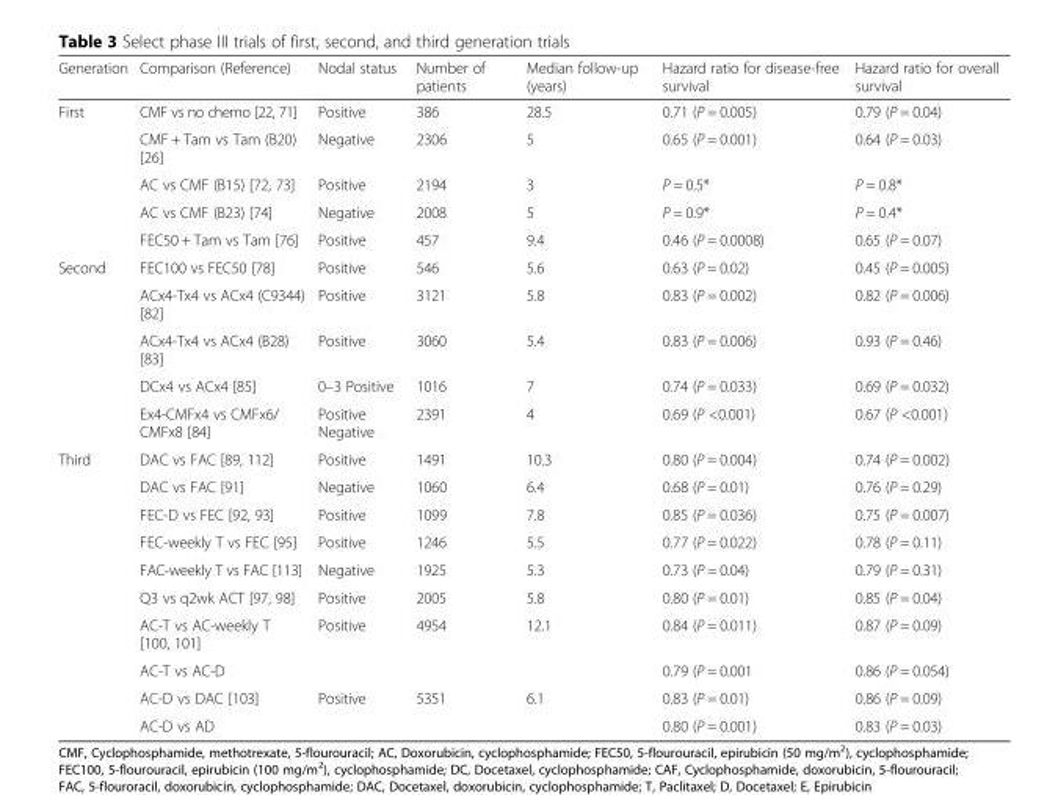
<table><thead><tr><td>Generation</td><td>Comparison (Reference)</td><td>Nodal status</td><td>Number of patients</td><td>Median follow-up (years)</td><td>Hazard ratio for disease-free survival</td><td>Hazard ratio for overall survival</td></tr></thead><tbody><tr><td rowspan="5">First</td><td>CMF vs no chemo [22, 71]</td><td>Positive</td><td>386</td><td>28.5</td><td>0.71 (P = 0.005)</td><td>0.79 (P = 0.04)</td></tr><tr><td>CMF + Tam vs Tam (B20) [26]</td><td>Negative</td><td>2306</td><td>5</td><td>0.65 (P = 0.001)</td><td>0.64 (P = 0.03)</td></tr><tr><td>AC vs CMF (B15) [72, 73]</td><td>Positive</td><td>2194</td><td>3</td><td>P = 0.5*</td><td>P = 0.8*</td></tr><tr><td>AC vs CMF (B23) [74]</td><td>Negative</td><td>2008</td><td>5</td><td>P = 0.9*</td><td>P = 0.4*</td></tr><tr><td>FEC50 + Tam vs Tam [76]</td><td>Positive</td><td>457</td><td>9.4</td><td>0.46 (P = 0.0008)</td><td>0.65 (P = 0.07)</td></tr><tr><td rowspan="5">Second</td><td>FEC100 vs FEC50 [78]</td><td>Positive</td><td>546</td><td>5.6</td><td>0.63 (P = 0.02)</td><td>0.45 (P = 0.005)</td></tr><tr><td>ACx4-Tx4 vs ACx4 (C9344) [82]</td><td>Positive</td><td>3121</td><td>5.8</td><td>0.83 (P = 0.002)</td><td>0.82 (P = 0.006)</td></tr><tr><td>ACx4-Tx4 vs ACx4 (B28) [83]</td><td>Positive</td><td>3060</td><td>5.4</td><td>0.83 (P = 0.006)</td><td>0.93 (P = 0.46)</td></tr><tr><td>DCx4 vs ACx4 [85]</td><td>0–3 Positive</td><td>1016</td><td>7</td><td>0.74 (P = 0.033)</td><td>0.69 (P = 0.032)</td></tr><tr><td>Ex4-CMFx4 vs CMFx6/ CMFx8 [84]</td><td>Positive Negative</td><td>2391</td><td>4</td><td>0.69 (P &lt;0.001)</td><td>0.67 (P &lt;0.001)</td></tr><tr><td rowspan="10">Third</td><td>DAC vs FAC [89, 112]</td><td>Positive</td><td>1491</td><td>10.3</td><td>0.80 (P = 0.004)</td><td>0.74 (P = 0.002)</td></tr><tr><td>DAC vs FAC [91]</td><td>Negative</td><td>1060</td><td>6.4</td><td>0.68 (P = 0.01)</td><td>0.76 (P = 0.29)</td></tr><tr><td>FEC-D vs FEC [92, 93]</td><td>Positive</td><td>1099</td><td>7.8</td><td>0.85 (P = 0.036)</td><td>0.75 (P = 0.007)</td></tr><tr><td>FEC-weekly T vs FEC [95]</td><td>Positive</td><td>1246</td><td>5.5</td><td>0.77 (P = 0.022)</td><td>0.78 (P = 0.11)</td></tr><tr><td>FAC-weekly T vs FAC [113]</td><td>Negative</td><td>1925</td><td>5.3</td><td>0.73 (P = 0.04)</td><td>0.79 (P = 0.31)</td></tr><tr><td>Q3 vs q2wk ACT [97, 98]</td><td>Positive</td><td>2005</td><td>5.8</td><td>0.80 (P = 0.01)</td><td>0.85 (P = 0.04)</td></tr><tr><td>AC-T vs AC-weekly T [100, 101]</td><td rowspan="2">Positive</td><td rowspan="2">4954</td><td rowspan="2">12.1</td><td>0.84 (P = 0.011)</td><td>0.87 (P = 0.09)</td></tr><tr><td>AC-T vs AC-D</td><td>0.79 (P = 0.001</td><td>0.86 (P = 0.054)</td></tr><tr><td>AC-D vs DAC [103]</td><td rowspan="2">Positive</td><td rowspan="2">5351</td><td rowspan="2">6.1</td><td>0.83 (P = 0.01)</td><td>0.86 (P = 0.09)</td></tr><tr><td>AC-D vs AD</td><td>0.80 (P = 0.001)</td><td>0.83 (P = 0.03)</td></tr></tbody></table>